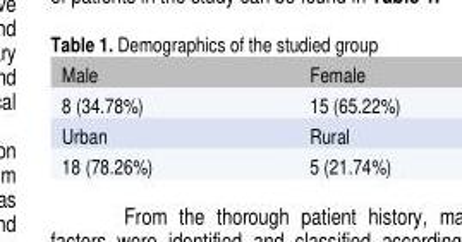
<table><tbody><tr><td>Male</td><td>Female</td></tr><tr><td>8 (34.78%)</td><td>15 (65.22%)</td></tr><tr><td>Urban</td><td>Rural</td></tr><tr><td>18 (78.26%)</td><td>5 (21.74%)</td></tr></tbody></table>